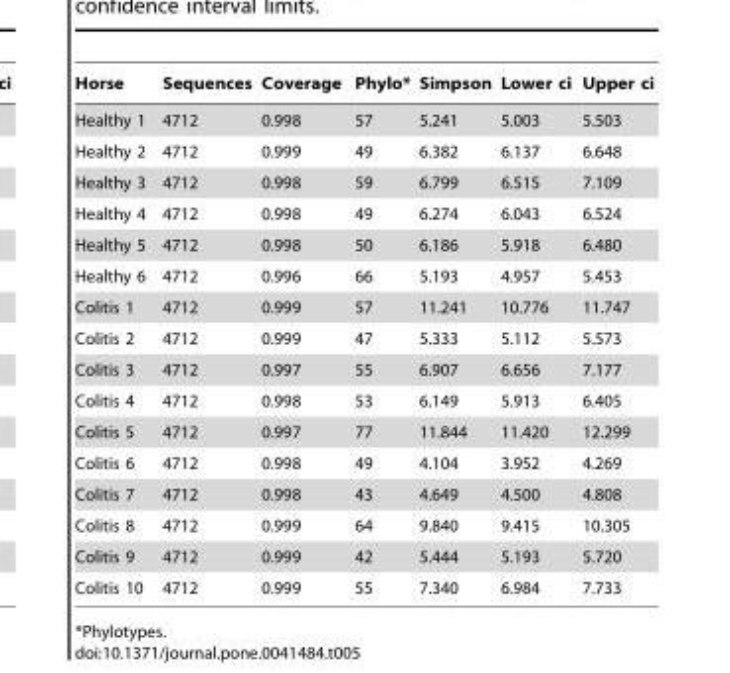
<table><thead><tr><td>Horse</td><td>Sequences</td><td>Coverage</td><td>Phylo*</td><td>Simpson</td><td>Lower ci</td><td>Upper ci</td></tr></thead><tbody><tr><td>Healthy 1</td><td>4712</td><td>0.998</td><td>57</td><td>5.241</td><td>5.003</td><td>5.503</td></tr><tr><td>Healthy 2</td><td>4712</td><td>0.999</td><td>49</td><td>6.382</td><td>6.137</td><td>6.648</td></tr><tr><td>Healthy 3</td><td>4712</td><td>0.998</td><td>59</td><td>6.799</td><td>6.515</td><td>7.109</td></tr><tr><td>Healthy 4</td><td>4712</td><td>0.998</td><td>49</td><td>6.274</td><td>6.043</td><td>6.524</td></tr><tr><td>Healthy 5</td><td>4712</td><td>0.998</td><td>50</td><td>6.186</td><td>5.918</td><td>6.480</td></tr><tr><td>Healthy 6</td><td>4712</td><td>0.996</td><td>66</td><td>5.193</td><td>4.957</td><td>5.453</td></tr><tr><td>Colitis 1</td><td>4712</td><td>0.999</td><td>57</td><td>11.241</td><td>10.776</td><td>11.747</td></tr><tr><td>Colitis 2</td><td>4712</td><td>0.999</td><td>47</td><td>5.333</td><td>5.112</td><td>5.573</td></tr><tr><td>Colitis 3</td><td>4712</td><td>0.997</td><td>55</td><td>6.907</td><td>6.656</td><td>7.177</td></tr><tr><td>Colitis 4</td><td>4712</td><td>0.998</td><td>53</td><td>6.149</td><td>5.913</td><td>6.405</td></tr><tr><td>Colitis 5</td><td>4712</td><td>0.997</td><td>77</td><td>11.844</td><td>11.420</td><td>12.299</td></tr><tr><td>Colitis 6</td><td>4712</td><td>0.998</td><td>49</td><td>4.104</td><td>3.952</td><td>4.269</td></tr><tr><td>Colitis 7</td><td>4712</td><td>0.998</td><td>43</td><td>4.649</td><td>4.500</td><td>4.808</td></tr><tr><td>Colitis 8</td><td>4712</td><td>0.999</td><td>64</td><td>9.840</td><td>9.415</td><td>10.305</td></tr><tr><td>Colitis 9</td><td>4712</td><td>0.999</td><td>42</td><td>5.444</td><td>5.193</td><td>5.720</td></tr><tr><td>Colitis 10</td><td>4712</td><td>0.999</td><td>55</td><td>7.340</td><td>6.984</td><td>7.733</td></tr></tbody></table>